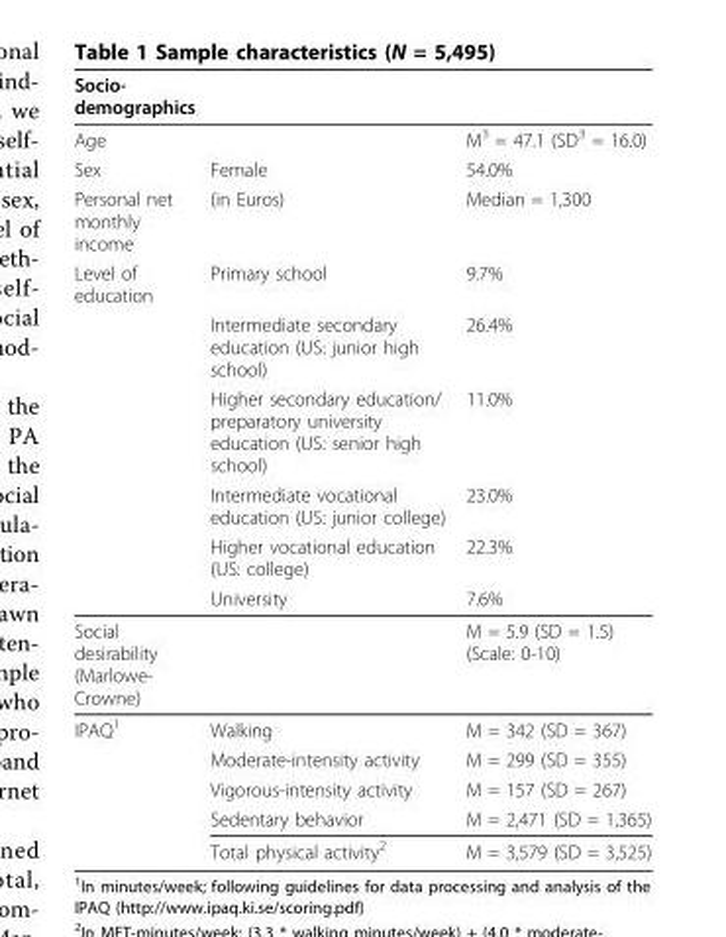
<table><thead><tr><td>Socio- demographics</td><td></td><td></td></tr></thead><tbody><tr><td>Age</td><td></td><td>M<sup>3</sup> = 47.1 (SD<sup>3</sup> = 16.0)</td></tr><tr><td>Sex</td><td>Female</td><td>54.0%</td></tr><tr><td>Personal net monthly income</td><td>(in Euros)</td><td>Median = 1,300</td></tr><tr><td rowspan="6">Level of education</td><td>Primary school</td><td>9.7%</td></tr><tr><td>Intermediate secondary education (US: junior high school)</td><td>26.4%</td></tr><tr><td>Higher secondary education/ preparatory university education (US: senior high school)</td><td>11.0%</td></tr><tr><td>Intermediate vocational education (US: junior college)</td><td>23.0%</td></tr><tr><td>Higher vocational education (US: college)</td><td>22.3%</td></tr><tr><td>University</td><td>7.6%</td></tr><tr><td>Social desirability (Marlowe- Crowne)</td><td></td><td>M = 5.9 (SD = 1.5) (Scale: 0-10)</td></tr><tr><td rowspan="5">IPAQ<sup>1</sup></td><td>Walking</td><td>M = 342 (SD = 367)</td></tr><tr><td>Moderate-intensity activity</td><td>M = 299 (SD = 355)</td></tr><tr><td>Vigorous-intensity activity</td><td>M = 157 (SD = 267)</td></tr><tr><td>Sedentary behavior</td><td>M = 2,471 (SD = 1,365)</td></tr><tr><td>Total physical activity<sup>2</sup></td><td>M = 3,579 (SD = 3,525)</td></tr></tbody></table>